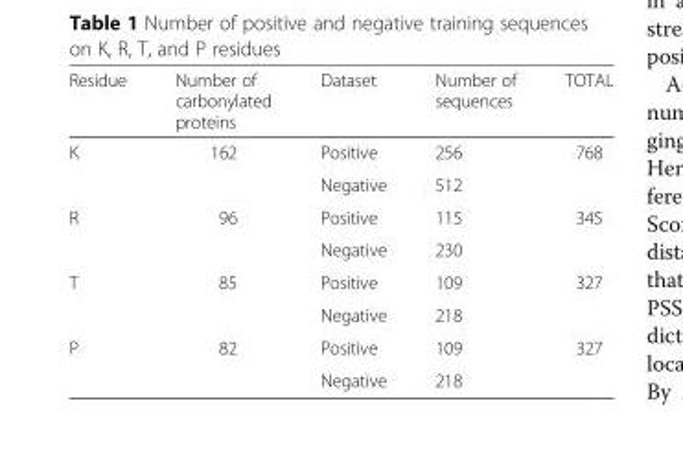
<table><thead><tr><td>Residue</td><td>Number of carbonylated proteins</td><td>Dataset</td><td>Number of sequences</td><td>TOTAL</td></tr></thead><tbody><tr><td rowspan="2">K</td><td>162</td><td>Positive</td><td>256</td><td>768</td></tr><tr><td></td><td>Negative</td><td>512</td><td></td></tr><tr><td rowspan="2">R</td><td>96</td><td>Positive</td><td>115</td><td>345</td></tr><tr><td></td><td>Negative</td><td>230</td><td></td></tr><tr><td rowspan="2">T</td><td>85</td><td>Positive</td><td>109</td><td>327</td></tr><tr><td></td><td>Negative</td><td>218</td><td></td></tr><tr><td rowspan="2">P</td><td>82</td><td>Positive</td><td>109</td><td>327</td></tr><tr><td></td><td>Negative</td><td>218</td><td></td></tr></tbody></table>